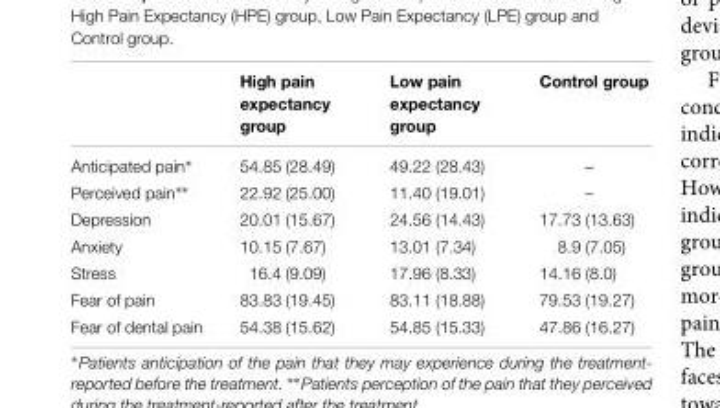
<table><thead><tr><td></td><td>High pain expectancy group</td><td>Low pain expectancy group</td><td>Control group</td></tr></thead><tbody><tr><td>Anticipated pain∗</td><td>54.85 (28.49)</td><td>49.22 (28.43)</td><td>–</td></tr><tr><td>Perceived pain∗∗</td><td>22.92 (25.00)</td><td>11.40 (19.01)</td><td>–</td></tr><tr><td>Depression</td><td>20.01 (15.67)</td><td>24.56 (14.43)</td><td>17.73 (13.63)</td></tr><tr><td>Anxiety</td><td>10.15 (7.67)</td><td>13.01 (7.34)</td><td>8.9 (7.05)</td></tr><tr><td>Stress</td><td>16.4 (9.09)</td><td>17.96 (8.33)</td><td>14.16 (8.0)</td></tr><tr><td>Fear of pain</td><td>83.83 (19.45)</td><td>83.11 (18.88)</td><td>79.53 (19.27)</td></tr><tr><td>Fear of dental pain</td><td>54.38 (15.62)</td><td>54.85 (15.33)</td><td>47.86 (16.27)</td></tr></tbody></table>